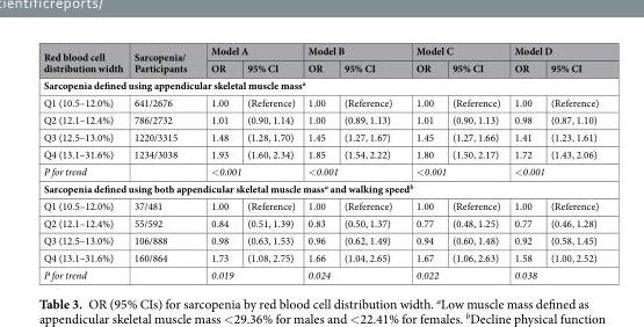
<table><thead><tr><td rowspan="2">Red blood cell distribution width</td><td rowspan="2">Sarcopenia/ Participants</td><td colspan="2">Model A</td><td colspan="2">Model B</td><td colspan="2">Model C</td><td colspan="2">Model D</td></tr><tr><td>OR</td><td>95% CI</td><td>OR</td><td>95% CI</td><td>OR</td><td>95% CI</td><td>OR</td><td>95% CI</td></tr></thead><tbody><tr><td colspan="10">Sarcopenia defined using appendicular skeletal muscle mass<sup>a</sup></td></tr><tr><td>Q1 (10.5–12.0%)</td><td>641/2676</td><td>1.00</td><td>(Reference)</td><td>1.00</td><td>(Reference)</td><td>1.00</td><td>(Reference)</td><td>1.00</td><td>(Reference)</td></tr><tr><td>Q2 (12.1–12.4%)</td><td>786/2732</td><td>1.01</td><td>(0.90, 1.14)</td><td>1.00</td><td>(0.89, 1.13)</td><td>1.01</td><td>(0.90, 1.13)</td><td>0.98</td><td>(0.87, 1.10)</td></tr><tr><td>Q3 (12.5–13.0%)</td><td>1220/3315</td><td>1.48</td><td>(1.28, 1.70)</td><td>1.45</td><td>(1.27, 1.67)</td><td>1.45</td><td>(1.27, 1.66)</td><td>1.41</td><td>(1.23, 1.61)</td></tr><tr><td>Q4 (13.1–31.6%)</td><td>1234/3038</td><td>1.93</td><td>(1.60, 2.34)</td><td>1.85</td><td>(1.54, 2.22)</td><td>1.80</td><td>(1.50, 2.17)</td><td>1.72</td><td>(1.43, 2.06)</td></tr><tr><td>P for trend</td><td></td><td colspan="2">&lt;0.001</td><td colspan="2">&lt;0.001</td><td colspan="2">&lt;0.001</td><td colspan="2">&lt;0.001</td></tr><tr><td colspan="10">Sarcopenia defined using both appendicular skeletal muscle mass<sup>a</sup> and walking speed<sup>b</sup></td></tr><tr><td>Q1 (10.5–12.0%)</td><td>37/481</td><td>1.00</td><td>(Reference)</td><td>1.00</td><td>(Reference)</td><td>1.00</td><td>(Reference)</td><td>1.00</td><td>(Reference)</td></tr><tr><td>Q2 (12.1–12.4%)</td><td>55/592</td><td>0.84</td><td>(0.51, 1.39)</td><td>0.83</td><td>(0.50, 1.37)</td><td>0.77</td><td>(0.48, 1.25)</td><td>0.77</td><td>(0.46, 1.28)</td></tr><tr><td>Q3 (12.5–13.0%)</td><td>106/888</td><td>0.98</td><td>(0.63, 1.53)</td><td>0.96</td><td>(0.62, 1.49)</td><td>0.94</td><td>(0.60, 1.48)</td><td>0.92</td><td>(0.58, 1.45)</td></tr><tr><td>Q4 (13.1–31.6%)</td><td>160/864</td><td>1.73</td><td>(1.08, 2.75)</td><td>1.66</td><td>(1.04, 2.65)</td><td>1.67</td><td>(1.06, 2.63)</td><td>1.58</td><td>(1.00, 2.52)</td></tr><tr><td>P for trend</td><td></td><td colspan="2">0.019</td><td colspan="2">0.024</td><td colspan="2">0.022</td><td colspan="2">0.038</td></tr></tbody></table>